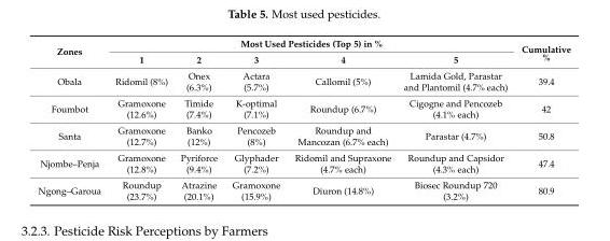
<table><thead><tr><td rowspan="2">Zones</td><td colspan="5">Most Used Pesticides (Top 5) in %</td><td rowspan="2">Cumulative %</td></tr><tr><td>1</td><td>2</td><td>3</td><td>4</td><td>5</td></tr></thead><tbody><tr><td>Obala</td><td>Ridomil (8%)</td><td>Onex (6.3%)</td><td>Actara (5.7%)</td><td>Callomil (5%)</td><td>Lamida Gold, Parastar and Plantomil (4.7% each)</td><td>39.4</td></tr><tr><td>Foumbot</td><td>Gramoxone (12.6%)</td><td>Timide (7.4%)</td><td>K-optimal (7.1%)</td><td>Roundup (6.7%)</td><td>Cigogne and Pencozeb (4.1% each)</td><td>42</td></tr><tr><td>Santa</td><td>Gramoxone (12.7%)</td><td>Banko (12%)</td><td>Pencozeb (8%)</td><td>Roundup and Mancozan (6.7% each)</td><td>Parastar (4.7%)</td><td>50.8</td></tr><tr><td>Njombe–Penja</td><td>Gramoxone (12.8%)</td><td>Pyriforce (9.4%)</td><td>Glyphader (7.2%)</td><td>Ridomil and Supraxone (4.7% each)</td><td>Roundup and Capsidor (4.3% each)</td><td>47.4</td></tr><tr><td>Ngong–Garoua</td><td>Roundup (23.7%)</td><td>Atrazine (20.1%)</td><td>Gramoxone (15.9%)</td><td>Diuron (14.8%)</td><td>Biosec Roundup 720 (3.2%)</td><td>80.9</td></tr></tbody></table>